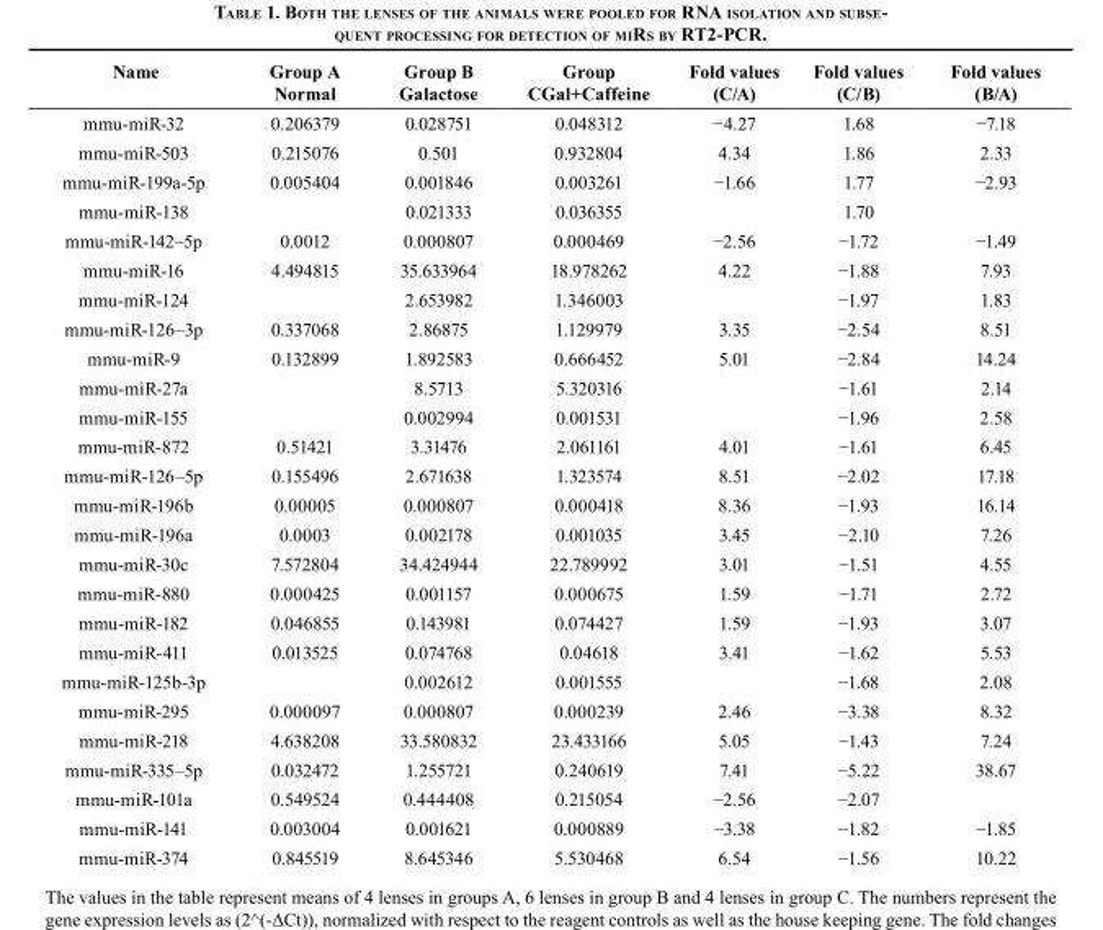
<table><thead><tr><td>Name</td><td>Group A Normal</td><td>Group B Galactose</td><td>Group CGal+Caffeine</td><td>Fold values (C/A)</td><td>Fold values (C/B)</td><td>Fold values (B/A)</td></tr></thead><tbody><tr><td>mmu-miR-32</td><td>0.206379</td><td>0.028751</td><td>0.048312</td><td>−4.27</td><td>1.68</td><td>−7.18</td></tr><tr><td>mmu-miR-503</td><td>0.215076</td><td>0.501</td><td>0.932804</td><td>4.34</td><td>1.86</td><td>2.33</td></tr><tr><td>mmu-miR-199a-5p</td><td>0.005404</td><td>0.001846</td><td>0.003261</td><td>−1.66</td><td>1.77</td><td>−2.93</td></tr><tr><td>mmu-miR-138</td><td></td><td>0.021333</td><td>0.036355</td><td></td><td>1.70</td><td></td></tr><tr><td>mmu-miR-142–5p</td><td>0.0012</td><td>0.000807</td><td>0.000469</td><td>−2.56</td><td>−1.72</td><td>−1.49</td></tr><tr><td>mmu-miR-16</td><td>4.494815</td><td>35.633964</td><td>18.978262</td><td>4.22</td><td>−1.88</td><td>7.93</td></tr><tr><td>mmu-miR-124</td><td></td><td>2.653982</td><td>1.346003</td><td></td><td>−1.97</td><td>1.83</td></tr><tr><td>mmu-miR-126–3p</td><td>0.337068</td><td>2.86875</td><td>1.129979</td><td>3.35</td><td>−2.54</td><td>8.51</td></tr><tr><td>mmu-miR-9</td><td>0.132899</td><td>1.892583</td><td>0.666452</td><td>5.01</td><td>−2.84</td><td>14.24</td></tr><tr><td>mmu-miR-27a</td><td></td><td>8.5713</td><td>5.320316</td><td></td><td>−1.61</td><td>2.14</td></tr><tr><td>mmu-miR-155</td><td></td><td>0.002994</td><td>0.001531</td><td></td><td>−1.96</td><td>2.58</td></tr><tr><td>mmu-miR-872</td><td>0.51421</td><td>3.31476</td><td>2.061161</td><td>4.01</td><td>−1.61</td><td>6.45</td></tr><tr><td>mmu-miR-126–5p</td><td>0.155496</td><td>2.671638</td><td>1.323574</td><td>8.51</td><td>−2.02</td><td>17.18</td></tr><tr><td>mmu-miR-196b</td><td>0.00005</td><td>0.000807</td><td>0.000418</td><td>8.36</td><td>−1.93</td><td>16.14</td></tr><tr><td>mmu-miR-196a</td><td>0.0003</td><td>0.002178</td><td>0.001035</td><td>3.45</td><td>−2.10</td><td>7.26</td></tr><tr><td>mmu-miR-30c</td><td>7.572804</td><td>34.424944</td><td>22.789992</td><td>3.01</td><td>−1.51</td><td>4.55</td></tr><tr><td>mmu-miR-880</td><td>0.000425</td><td>0.001157</td><td>0.000675</td><td>1.59</td><td>−1.71</td><td>2.72</td></tr><tr><td>mmu-miR-182</td><td>0.046855</td><td>0.143981</td><td>0.074427</td><td>1.59</td><td>−1.93</td><td>3.07</td></tr><tr><td>mmu-miR-411</td><td>0.013525</td><td>0.074768</td><td>0.04618</td><td>3.41</td><td>−1.62</td><td>5.53</td></tr><tr><td>mmu-miR-125b-3p</td><td></td><td>0.002612</td><td>0.001555</td><td></td><td>−1.68</td><td>2.08</td></tr><tr><td>mmu-miR-295</td><td>0.000097</td><td>0.000807</td><td>0.000239</td><td>2.46</td><td>−3.38</td><td>8.32</td></tr><tr><td>mmu-miR-218</td><td>4.638208</td><td>33.580832</td><td>23.433166</td><td>5.05</td><td>−1.43</td><td>7.24</td></tr><tr><td>mmu-miR-335–5p</td><td>0.032472</td><td>1.255721</td><td>0.240619</td><td>7.41</td><td>−5.22</td><td>38.67</td></tr><tr><td>mmu-miR-101a</td><td>0.549524</td><td>0.444408</td><td>0.215054</td><td>−2.56</td><td>−2.07</td><td></td></tr><tr><td>mmu-miR-141</td><td>0.003004</td><td>0.001621</td><td>0.000889</td><td>−3.38</td><td>−1.82</td><td>−1.85</td></tr><tr><td>mmu-miR-374</td><td>0.845519</td><td>8.645346</td><td>5.530468</td><td>6.54</td><td>−1.56</td><td>10.22</td></tr></tbody></table>